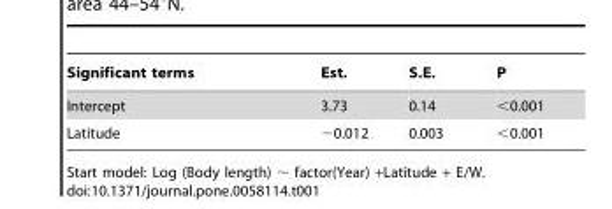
<table><thead><tr><td>Significant terms</td><td>Est.</td><td>S.E.</td><td>P</td></tr></thead><tbody><tr><td>Intercept</td><td>3.73</td><td>0.14</td><td>&lt;0.001</td></tr><tr><td>Latitude</td><td>−0.012</td><td>0.003</td><td>&lt;0.001</td></tr></tbody></table>